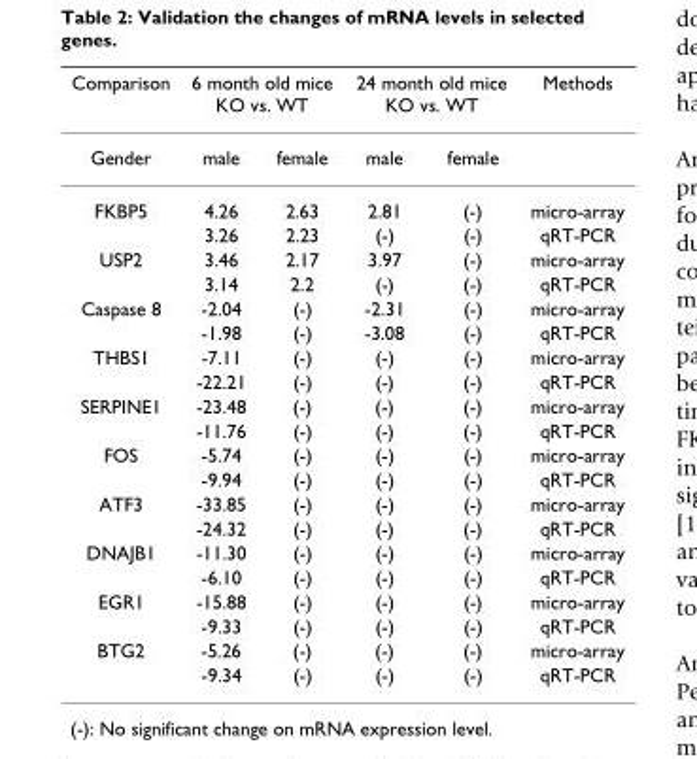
<table><thead><tr><td rowspan="2">Comparison Gender</td><td colspan="2">6 month old mice KO vs. WT</td><td colspan="2">24 month old mice KO vs. WT</td><td rowspan="2">Methods</td></tr><tr><td>male</td><td>female</td><td>male</td><td>female</td></tr></thead><tbody><tr><td rowspan="2">FKBP5</td><td>4.26</td><td>2.63</td><td>2.81</td><td>(-)</td><td>micro-array</td></tr><tr><td>3.26</td><td>2.23</td><td>(-)</td><td>(-)</td><td>qRT-PCR</td></tr><tr><td rowspan="2">USP2</td><td>3.46</td><td>2.17</td><td>3.97</td><td>(-)</td><td>micro-array</td></tr><tr><td>3.14</td><td>2.2</td><td>(-)</td><td>(-)</td><td>qRT-PCR</td></tr><tr><td rowspan="2">Caspase 8</td><td>-2.04</td><td>(-)</td><td>-2.31</td><td>(-)</td><td>micro-array</td></tr><tr><td>-1.98</td><td>(-)</td><td>-3.08</td><td>(-)</td><td>qRT-PCR</td></tr><tr><td rowspan="2">THBS1</td><td>-7.11</td><td>(-)</td><td>(-)</td><td>(-)</td><td>micro-array</td></tr><tr><td>-22.21</td><td>(-)</td><td>(-)</td><td>(-)</td><td>qRT-PCR</td></tr><tr><td rowspan="2">SERPINE1</td><td>-23.48</td><td>(-)</td><td>(-)</td><td>(-)</td><td>micro-array</td></tr><tr><td>-11.76</td><td>(-)</td><td>(-)</td><td>(-)</td><td>qRT-PCR</td></tr><tr><td rowspan="2">FOS</td><td>-5.74</td><td>(-)</td><td>(-)</td><td>(-)</td><td>micro-array</td></tr><tr><td>-9.94</td><td>(-)</td><td>(-)</td><td>(-)</td><td>qRT-PCR</td></tr><tr><td rowspan="2">ATF3</td><td>-33.85</td><td>(-)</td><td>(-)</td><td>(-)</td><td>micro-array</td></tr><tr><td>-24.32</td><td>(-)</td><td>(-)</td><td>(-)</td><td>qRT-PCR</td></tr><tr><td rowspan="2">DNAJB1</td><td>-11.30</td><td>(-)</td><td>(-)</td><td>(-)</td><td>micro-array</td></tr><tr><td>-6.10</td><td>(-)</td><td>(-)</td><td>(-)</td><td>qRT-PCR</td></tr><tr><td rowspan="2">EGR1</td><td>-15.88</td><td>(-)</td><td>(-)</td><td>(-)</td><td>micro-array</td></tr><tr><td>-9.33</td><td>(-)</td><td>(-)</td><td>(-)</td><td>qRT-PCR</td></tr><tr><td rowspan="2">BTG2</td><td>-5.26</td><td>(-)</td><td>(-)</td><td>(-)</td><td>micro-array</td></tr><tr><td>-9.34</td><td>(-)</td><td>(-)</td><td>(-)</td><td>qRT-PCR</td></tr></tbody></table>